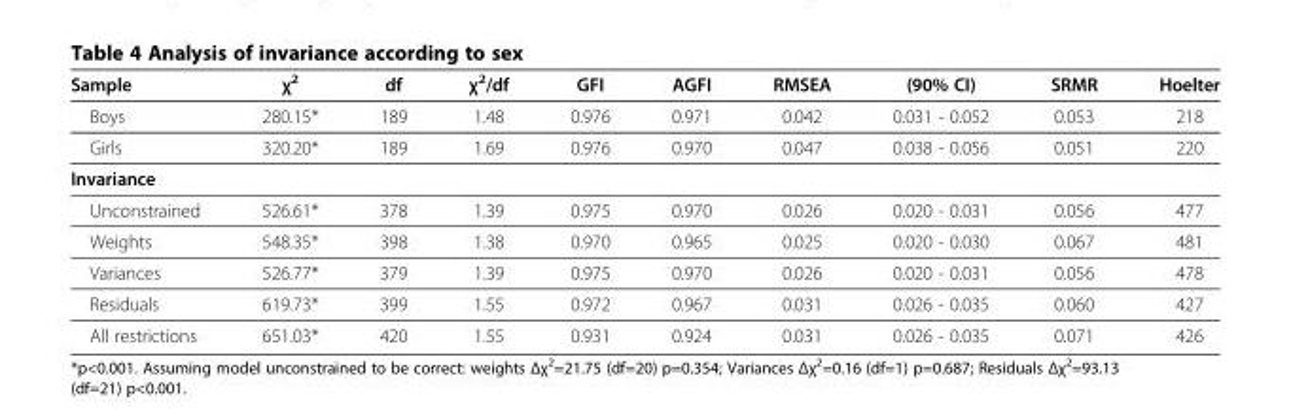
<table><thead><tr><td>Sample</td><td>χ<sup>2</sup></td><td>df</td><td>χ<sup>2</sup>/df</td><td>GFI</td><td>AGFI</td><td>RMSEA</td><td>(90% CI)</td><td>SRMR</td><td>Hoelter</td></tr></thead><tbody><tr><td>Boys</td><td>280.15*</td><td>189</td><td>1.48</td><td>0.976</td><td>0.971</td><td>0.042</td><td>0.031 - 0.052</td><td>0.053</td><td>218</td></tr><tr><td>Girls</td><td>320.20*</td><td>189</td><td>1.69</td><td>0.976</td><td>0.970</td><td>0.047</td><td>0.038 - 0.056</td><td>0.051</td><td>220</td></tr><tr><td colspan="10">Invariance</td></tr><tr><td>Unconstrained</td><td>526.61*</td><td>378</td><td>1.39</td><td>0.975</td><td>0.970</td><td>0.026</td><td>0.020 - 0.031</td><td>0.056</td><td>477</td></tr><tr><td>Weights</td><td>548.35*</td><td>398</td><td>1.38</td><td>0.970</td><td>0.965</td><td>0.025</td><td>0.020 - 0.030</td><td>0.067</td><td>481</td></tr><tr><td>Variances</td><td>526.77*</td><td>379</td><td>1.39</td><td>0.975</td><td>0.970</td><td>0.026</td><td>0.020 - 0.031</td><td>0.056</td><td>478</td></tr><tr><td>Residuals</td><td>619.73*</td><td>399</td><td>1.55</td><td>0.972</td><td>0.967</td><td>0.031</td><td>0.026 - 0.035</td><td>0.060</td><td>427</td></tr><tr><td>All restrictions</td><td>651.03*</td><td>420</td><td>1.55</td><td>0.931</td><td>0.924</td><td>0.031</td><td>0.026 - 0.035</td><td>0.071</td><td>426</td></tr></tbody></table>